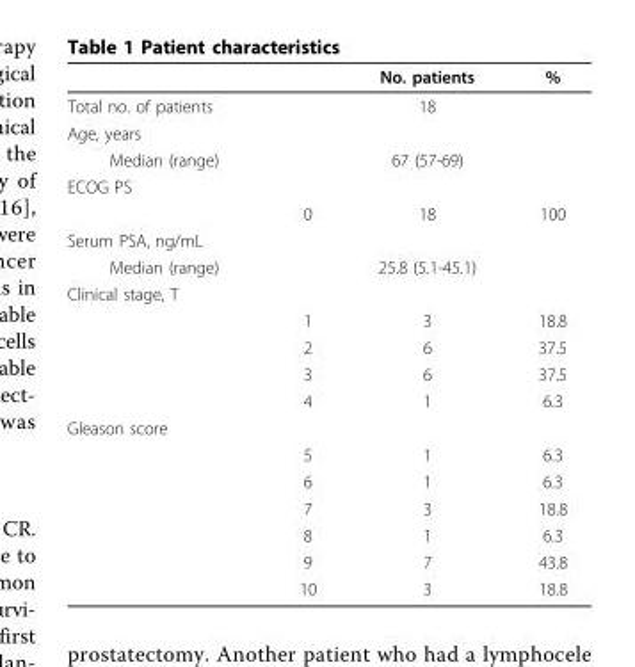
<table><thead><tr><td></td><td></td><td>No. patients</td><td>%</td></tr></thead><tbody><tr><td>Total no. of patients</td><td></td><td>18</td><td></td></tr><tr><td colspan="4">Age, years</td></tr><tr><td>Median (range)</td><td></td><td>67 (57-69)</td><td></td></tr><tr><td colspan="4">ECOG PS</td></tr><tr><td></td><td>0</td><td>18</td><td>100</td></tr><tr><td colspan="4">Serum PSA, ng/mL</td></tr><tr><td>Median (range)</td><td></td><td>25.8 (5.1-45.1)</td><td></td></tr><tr><td colspan="4">Clinical stage, T</td></tr><tr><td></td><td>1</td><td>3</td><td>18.8</td></tr><tr><td></td><td>2</td><td>6</td><td>37.5</td></tr><tr><td></td><td>3</td><td>6</td><td>37.5</td></tr><tr><td></td><td>4</td><td>1</td><td>6.3</td></tr><tr><td colspan="4">Gleason score</td></tr><tr><td></td><td>5</td><td>1</td><td>6.3</td></tr><tr><td></td><td>6</td><td>1</td><td>6.3</td></tr><tr><td></td><td>7</td><td>3</td><td>18.8</td></tr><tr><td></td><td>8</td><td>1</td><td>6.3</td></tr><tr><td></td><td>9</td><td>7</td><td>43.8</td></tr><tr><td></td><td>10</td><td>3</td><td>18.8</td></tr></tbody></table>